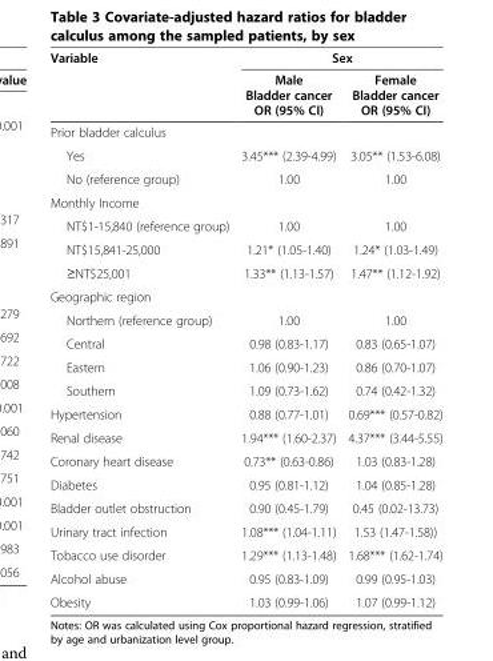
<table><thead><tr><td rowspan="2">Variable</td><td colspan="2">Sex</td></tr><tr><td>Male Bladder cancer OR (95% CI)</td><td>Female Bladder cancer OR (95% CI)</td></tr></thead><tbody><tr><td colspan="3">Prior bladder calculus</td></tr><tr><td>Yes</td><td>3.45*** (2.39-4.99)</td><td>3.05** (1.53-6.08)</td></tr><tr><td>No (reference group)</td><td>1.00</td><td>1.00</td></tr><tr><td colspan="3">Monthly Income</td></tr><tr><td>NT$1-15,840 (reference group)</td><td>1.00</td><td>1.00</td></tr><tr><td>NT$15,841-25,000</td><td>1.21* (1.05-1.40)</td><td>1.24* (1.03-1.49)</td></tr><tr><td>≥NT$25,001</td><td>1.33** (1.13-1.57)</td><td>1.47** (1.12-1.92)</td></tr><tr><td colspan="3">Geographic region</td></tr><tr><td>Northern (reference group)</td><td>1.00</td><td>1.00</td></tr><tr><td>Central</td><td>0.98 (0.83-1.17)</td><td>0.83 (0.65-1.07)</td></tr><tr><td>Eastern</td><td>1.06 (0.90-1.23)</td><td>0.86 (0.70-1.07)</td></tr><tr><td>Southern</td><td>1.09 (0.73-1.62)</td><td>0.74 (0.42-1.32)</td></tr><tr><td>Hypertension</td><td>0.88 (0.77-1.01)</td><td>0.69*** (0.57-0.82)</td></tr><tr><td>Renal disease</td><td>1.94*** (1.60-2.37)</td><td>4.37*** (3.44-5.55)</td></tr><tr><td>Coronary heart disease</td><td>0.73** (0.63-0.86)</td><td>1.03 (0.83-1.28)</td></tr><tr><td>Diabetes</td><td>0.95 (0.81-1.12)</td><td>1.04 (0.85-1.28)</td></tr><tr><td>Bladder outlet obstruction</td><td>0.90 (0.45-1.79)</td><td>0.45 (0.02-13.73)</td></tr><tr><td>Urinary tract infection</td><td>1.08*** (1.04-1.11)</td><td>1.53 (1.47-1.58))</td></tr><tr><td>Tobacco use disorder</td><td>1.29*** (1.13-1.48)</td><td>1.68*** (1.62-1.74)</td></tr><tr><td>Alcohol abuse</td><td>0.95 (0.83-1.09)</td><td>0.99 (0.95-1.03)</td></tr><tr><td>Obesity</td><td>1.03 (0.99-1.06)</td><td>1.07 (0.99-1.12)</td></tr></tbody></table>